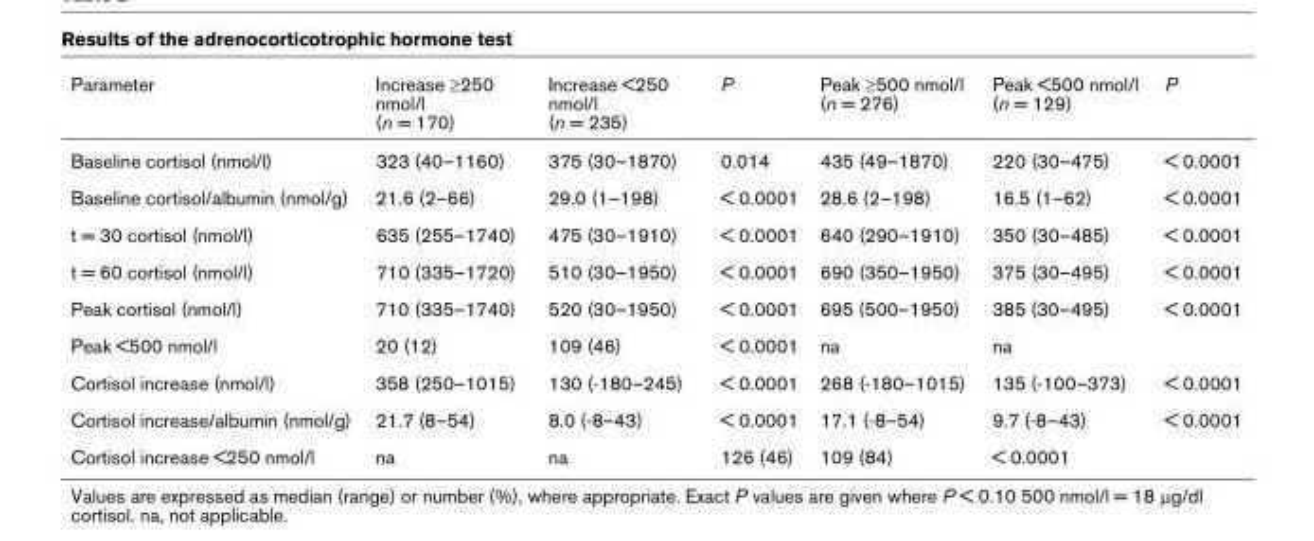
<table><thead><tr><td>Parameter</td><td>Increase ≥250 nmol/l (n = 170)</td><td>Increase &lt;250 nmol/l (n = 235)</td><td>P</td><td>Peak ≥500 nmol/l (n = 276)</td><td>Peak &lt;500 nmol/l (n = 129)</td><td>P</td></tr></thead><tbody><tr><td>Baseline cortisol (nmol/l)</td><td>323 (40–1160)</td><td>375 (30–1870)</td><td>0.014</td><td>435 (49–1870)</td><td>220 (30–475)</td><td>&lt; 0.0001</td></tr><tr><td>Baseline cortisol/albumin (nmol/g)</td><td>21.6 (2–66)</td><td>29.0 (1–198)</td><td>&lt; 0.0001</td><td>28.6 (2–198)</td><td>16.5 (1–62)</td><td>&lt; 0.0001</td></tr><tr><td>t = 30 cortisol (nmol/l)</td><td>635 (255–1740)</td><td>475 (30–1910)</td><td>&lt; 0.0001</td><td>640 (290–1910)</td><td>350 (30–485)</td><td>&lt; 0.0001</td></tr><tr><td>t = 60 cortisol (nmol/l)</td><td>710 (335–1720)</td><td>510 (30–1950)</td><td>&lt; 0.0001</td><td>690 (350–1950)</td><td>375 (30–495)</td><td>&lt; 0.0001</td></tr><tr><td>Peak cortisol (nmol/l)</td><td>710 (335–1740)</td><td>520 (30–1950)</td><td>&lt; 0.0001</td><td>695 (500–1950)</td><td>385 (30–495)</td><td>&lt; 0.0001</td></tr><tr><td>Peak &lt;500 nmol/l</td><td>20 (12)</td><td>109 (46)</td><td>&lt; 0.0001</td><td>na</td><td>na</td><td></td></tr><tr><td>Cortisol increase (nmol/l)</td><td>358 (250–1015)</td><td>130 (-180–245)</td><td>&lt; 0.0001</td><td>268 (-180–1015)</td><td>135 (-100–373)</td><td>&lt; 0.0001</td></tr><tr><td>Cortisol increase/albumin (nmol/g)</td><td>21.7 (8–54)</td><td>8.0 (-8–43)</td><td>&lt; 0.0001</td><td>17.1 (-8–54)</td><td>9.7 (-8–43)</td><td>&lt; 0.0001</td></tr><tr><td>Cortisol increase &lt;250 nmol/l</td><td>na</td><td>na</td><td>126 (46)</td><td>109 (84)</td><td>&lt; 0.0001</td><td></td></tr></tbody></table>